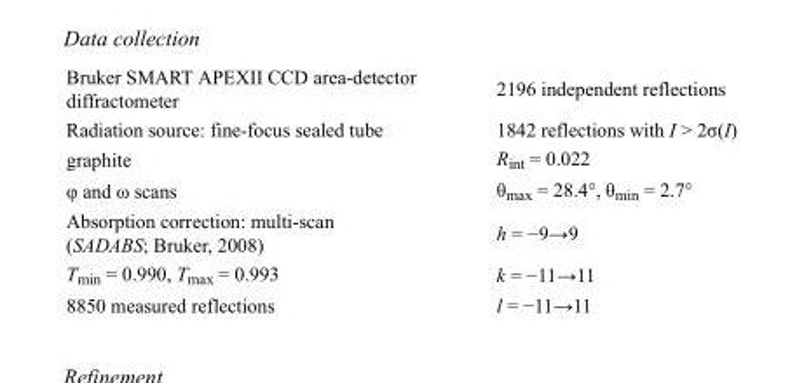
<table><tbody><tr><td>Bruker SMART APEXII CCD area-detector diffractometer</td><td>2196 independent reflections</td></tr><tr><td>Radiation source: fine-focus sealed tube</td><td>1842 reflections with I &gt; 2σ(I)</td></tr><tr><td>graphite</td><td>R<sub>int</sub> = 0.022</td></tr><tr><td>φ and ω scans</td><td>θ<sub>max</sub> = 28.4°, θ<sub>min</sub> = 2.7°</td></tr><tr><td>Absorption correction: multi-scan (SADABS; Bruker, 2008)</td><td>h = −9→9</td></tr><tr><td>T<sub>min</sub> = 0.990, T<sub>max</sub> = 0.993</td><td>k = −11→11</td></tr><tr><td>8850 measured reflections</td><td>l = −11→11</td></tr></tbody></table>